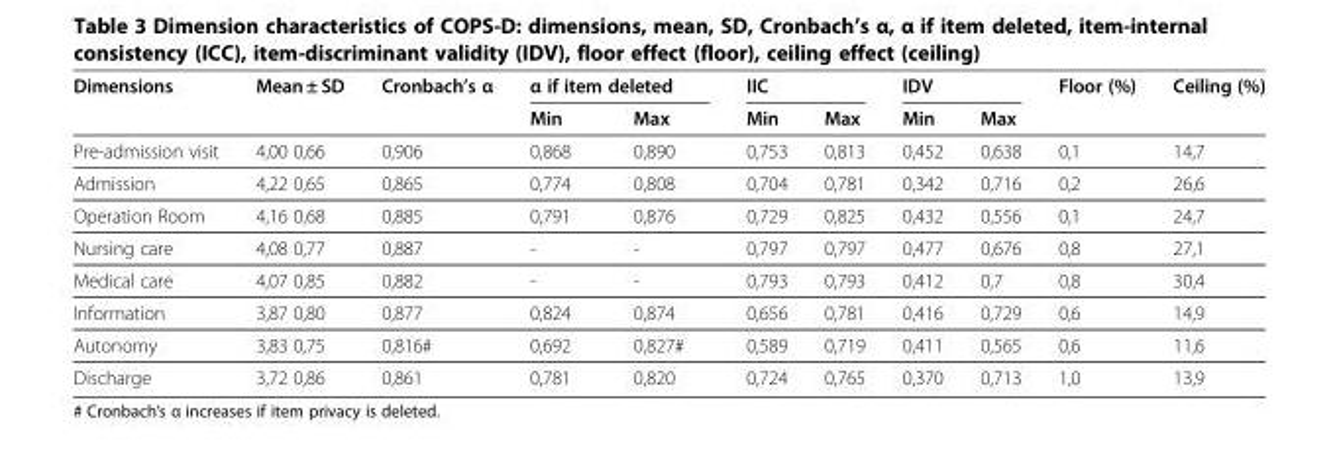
<table><thead><tr><td rowspan="2">Dimensions</td><td rowspan="2">Mean ± SD</td><td rowspan="2">Cronbach’s α</td><td colspan="2">α if item deleted</td><td colspan="2">IIC</td><td colspan="2">IDV</td><td rowspan="2">Floor (%)</td><td rowspan="2">Ceiling (%)</td></tr><tr><td>Min</td><td>Max</td><td>Min</td><td>Max</td><td>Min</td><td>Max</td></tr></thead><tbody><tr><td>Pre-admission visit</td><td>4,00 0,66</td><td>0,906</td><td>0,868</td><td>0,890</td><td>0,753</td><td>0,813</td><td>0,452</td><td>0,638</td><td>0,1</td><td>14,7</td></tr><tr><td>Admission</td><td>4,22 0,65</td><td>0,865</td><td>0,774</td><td>0,808</td><td>0,704</td><td>0,781</td><td>0,342</td><td>0,716</td><td>0,2</td><td>26,6</td></tr><tr><td>Operation Room</td><td>4,16 0,68</td><td>0,885</td><td>0,791</td><td>0,876</td><td>0,729</td><td>0,825</td><td>0,432</td><td>0,556</td><td>0,1</td><td>24,7</td></tr><tr><td>Nursing care</td><td>4,08 0,77</td><td>0,887</td><td>-</td><td>-</td><td>0,797</td><td>0,797</td><td>0,477</td><td>0,676</td><td>0,8</td><td>27,1</td></tr><tr><td>Medical care</td><td>4,07 0,85</td><td>0,882</td><td>-</td><td>-</td><td>0,793</td><td>0,793</td><td>0,412</td><td>0,7</td><td>0,8</td><td>30,4</td></tr><tr><td>Information</td><td>3,87 0,80</td><td>0,877</td><td>0,824</td><td>0,874</td><td>0,656</td><td>0,781</td><td>0,416</td><td>0,729</td><td>0,6</td><td>14,9</td></tr><tr><td>Autonomy</td><td>3,83 0,75</td><td>0,816#</td><td>0,692</td><td>0,827#</td><td>0,589</td><td>0,719</td><td>0,411</td><td>0,565</td><td>0,6</td><td>11,6</td></tr><tr><td>Discharge</td><td>3,72 0,86</td><td>0,861</td><td>0,781</td><td>0,820</td><td>0,724</td><td>0,765</td><td>0,370</td><td>0,713</td><td>1,0</td><td>13,9</td></tr></tbody></table>